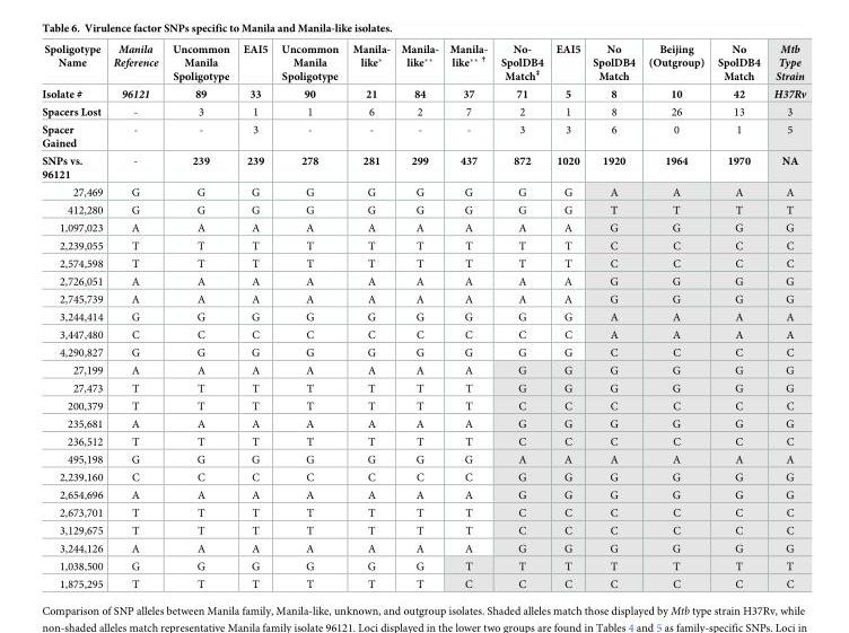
<table><thead><tr><td>Spoligotype Name</td><td>Manila Reference</td><td>Uncommon Manila Spoligotype</td><td>EAI5</td><td>Uncommon Manila Spoligotype</td><td>Manila- like*</td><td>Manila- like**</td><td>Manila- like** <sup>†</sup></td><td>No- SpolDB4 Match<sup>‡</sup></td><td>EAI5</td><td>No SpolDB4 Match</td><td>Beijing (Outgroup)</td><td>No SpolDB4 Match</td><td>Mtb Type Strain</td></tr></thead><tbody><tr><td>Isolate #</td><td>96121</td><td>89</td><td>33</td><td>90</td><td>21</td><td>84</td><td>37</td><td>71</td><td>5</td><td>8</td><td>10</td><td>42</td><td>H37Rv</td></tr><tr><td>Spacers Lost</td><td>-</td><td>3</td><td>1</td><td>1</td><td>6</td><td>2</td><td>7</td><td>2</td><td>1</td><td>8</td><td>26</td><td>13</td><td>3</td></tr><tr><td>Spacer Gained</td><td>-</td><td>-</td><td>3</td><td>-</td><td>-</td><td>-</td><td>-</td><td>3</td><td>3</td><td>6</td><td>0</td><td>1</td><td>5</td></tr><tr><td>SNPs vs. 96121</td><td>-</td><td>239</td><td>239</td><td>278</td><td>281</td><td>299</td><td>437</td><td>872</td><td>1020</td><td>1920</td><td>1964</td><td>1970</td><td>NA</td></tr><tr><td>27,469</td><td>G</td><td>G</td><td>G</td><td>G</td><td>G</td><td>G</td><td>G</td><td>G</td><td>G</td><td>A</td><td>A</td><td>A</td><td>A</td></tr><tr><td>412,280</td><td>G</td><td>G</td><td>G</td><td>G</td><td>G</td><td>G</td><td>G</td><td>G</td><td>G</td><td>T</td><td>T</td><td>T</td><td>T</td></tr><tr><td>1,097,023</td><td>A</td><td>A</td><td>A</td><td>A</td><td>A</td><td>A</td><td>A</td><td>A</td><td>A</td><td>G</td><td>G</td><td>G</td><td>G</td></tr><tr><td>2,239,055</td><td>T</td><td>T</td><td>T</td><td>T</td><td>T</td><td>T</td><td>T</td><td>T</td><td>T</td><td>C</td><td>C</td><td>C</td><td>C</td></tr><tr><td>2,574,598</td><td>T</td><td>T</td><td>T</td><td>T</td><td>T</td><td>T</td><td>T</td><td>T</td><td>T</td><td>C</td><td>C</td><td>C</td><td>C</td></tr><tr><td>2,726,051</td><td>A</td><td>A</td><td>A</td><td>A</td><td>A</td><td>A</td><td>A</td><td>A</td><td>A</td><td>G</td><td>G</td><td>G</td><td>G</td></tr><tr><td>2,745,739</td><td>A</td><td>A</td><td>A</td><td>A</td><td>A</td><td>A</td><td>A</td><td>A</td><td>A</td><td>G</td><td>G</td><td>G</td><td>G</td></tr><tr><td>3,244,414</td><td>G</td><td>G</td><td>G</td><td>G</td><td>G</td><td>G</td><td>G</td><td>G</td><td>G</td><td>A</td><td>A</td><td>A</td><td>A</td></tr><tr><td>3,447,480</td><td>C</td><td>C</td><td>C</td><td>C</td><td>C</td><td>C</td><td>C</td><td>C</td><td>C</td><td>A</td><td>A</td><td>A</td><td>A</td></tr><tr><td>4,290,827</td><td>G</td><td>G</td><td>G</td><td>G</td><td>G</td><td>G</td><td>G</td><td>G</td><td>G</td><td>C</td><td>C</td><td>C</td><td>C</td></tr><tr><td>27,199</td><td>A</td><td>A</td><td>A</td><td>A</td><td>A</td><td>A</td><td>A</td><td>G</td><td>G</td><td>G</td><td>G</td><td>G</td><td>G</td></tr><tr><td>27,473</td><td>T</td><td>T</td><td>T</td><td>T</td><td>T</td><td>T</td><td>T</td><td>G</td><td>G</td><td>G</td><td>G</td><td>G</td><td>G</td></tr><tr><td>200,379</td><td>T</td><td>T</td><td>T</td><td>T</td><td>T</td><td>T</td><td>T</td><td>C</td><td>C</td><td>C</td><td>C</td><td>C</td><td>C</td></tr><tr><td>235,681</td><td>A</td><td>A</td><td>A</td><td>A</td><td>A</td><td>A</td><td>A</td><td>G</td><td>G</td><td>G</td><td>G</td><td>G</td><td>G</td></tr><tr><td>236,512</td><td>T</td><td>T</td><td>T</td><td>T</td><td>T</td><td>T</td><td>T</td><td>C</td><td>C</td><td>C</td><td>C</td><td>C</td><td>C</td></tr><tr><td>495,198</td><td>G</td><td>G</td><td>G</td><td>G</td><td>G</td><td>G</td><td>G</td><td>A</td><td>A</td><td>A</td><td>A</td><td>A</td><td>A</td></tr><tr><td>2,239,160</td><td>C</td><td>C</td><td>C</td><td>C</td><td>C</td><td>C</td><td>C</td><td>G</td><td>G</td><td>G</td><td>G</td><td>G</td><td>G</td></tr><tr><td>2,654,696</td><td>A</td><td>A</td><td>A</td><td>A</td><td>A</td><td>A</td><td>A</td><td>G</td><td>G</td><td>G</td><td>G</td><td>G</td><td>G</td></tr><tr><td>2,673,701</td><td>T</td><td>T</td><td>T</td><td>T</td><td>T</td><td>T</td><td>T</td><td>C</td><td>C</td><td>C</td><td>C</td><td>C</td><td>C</td></tr><tr><td>3,129,675</td><td>T</td><td>T</td><td>T</td><td>T</td><td>T</td><td>T</td><td>T</td><td>C</td><td>C</td><td>C</td><td>C</td><td>C</td><td>C</td></tr><tr><td>3,244,126</td><td>A</td><td>A</td><td>A</td><td>A</td><td>A</td><td>A</td><td>A</td><td>G</td><td>G</td><td>G</td><td>G</td><td>G</td><td>G</td></tr><tr><td>1,038,500</td><td>G</td><td>G</td><td>G</td><td>G</td><td>G</td><td>G</td><td>T</td><td>T</td><td>T</td><td>T</td><td>T</td><td>T</td><td>T</td></tr><tr><td>1,875,295</td><td>T</td><td>T</td><td>T</td><td>T</td><td>T</td><td>T</td><td>C</td><td>C</td><td>C</td><td>C</td><td>C</td><td>C</td><td>C</td></tr></tbody></table>